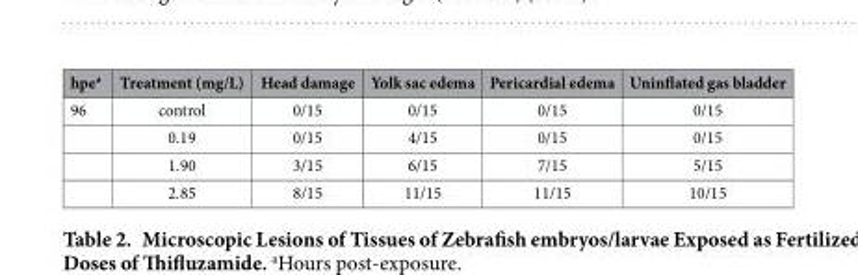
<table><thead><tr><td>hpe<sup>a</sup></td><td>Treatment (mg/L)</td><td>Head damage</td><td>Yolk sac edema</td><td>Pericardial edema</td><td>Uninflated gas bladder</td></tr></thead><tbody><tr><td rowspan="4">96</td><td>control</td><td>0/15</td><td>0/15</td><td>0/15</td><td>0/15</td></tr><tr><td>0.19</td><td>0/15</td><td>4/15</td><td>0/15</td><td>0/15</td></tr><tr><td>1.90</td><td>3/15</td><td>6/15</td><td>7/15</td><td>5/15</td></tr><tr><td>2.85</td><td>8/15</td><td>11/15</td><td>11/15</td><td>10/15</td></tr></tbody></table>